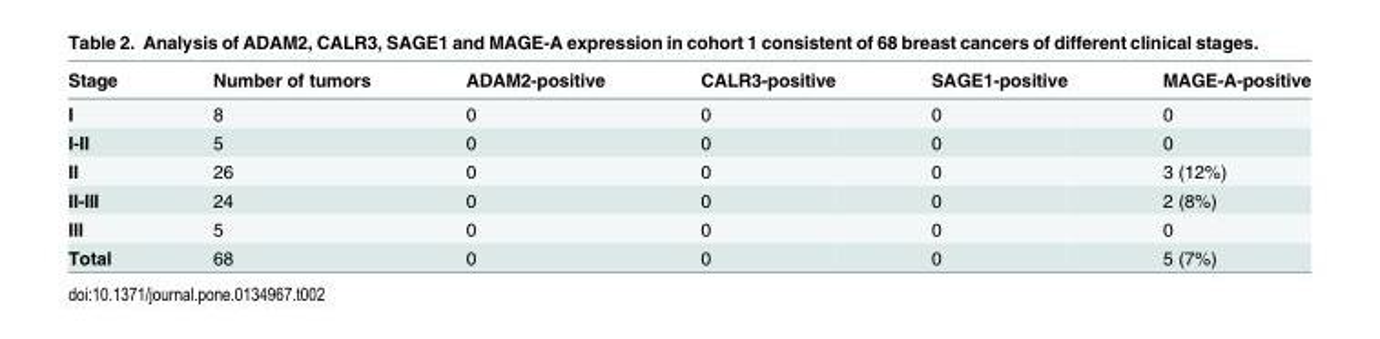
<table><thead><tr><td>Stage</td><td>Number of tumors</td><td>ADAM2-positive</td><td>CALR3-positive</td><td>SAGE1-positive</td><td>MAGE-A-positive</td></tr></thead><tbody><tr><td>I</td><td>8</td><td>0</td><td>0</td><td>0</td><td>0</td></tr><tr><td>I-II</td><td>5</td><td>0</td><td>0</td><td>0</td><td>0</td></tr><tr><td>II</td><td>26</td><td>0</td><td>0</td><td>0</td><td>3 (12%)</td></tr><tr><td>II-III</td><td>24</td><td>0</td><td>0</td><td>0</td><td>2 (8%)</td></tr><tr><td>III</td><td>5</td><td>0</td><td>0</td><td>0</td><td>0</td></tr><tr><td>Total</td><td>68</td><td>0</td><td>0</td><td>0</td><td>5 (7%)</td></tr></tbody></table>